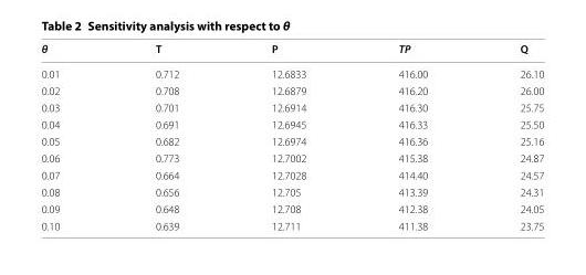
<table><thead><tr><td>θ</td><td>T</td><td>P</td><td>TP</td><td>Q</td></tr></thead><tbody><tr><td>0.01</td><td>0.712</td><td>12.6833</td><td>416.00</td><td>26.10</td></tr><tr><td>0.02</td><td>0.708</td><td>12.6879</td><td>416.20</td><td>26.00</td></tr><tr><td>0.03</td><td>0.701</td><td>12.6914</td><td>416.30</td><td>25.75</td></tr><tr><td>0.04</td><td>0.691</td><td>12.6945</td><td>416.33</td><td>25.50</td></tr><tr><td>0.05</td><td>0.682</td><td>12.6974</td><td>416.36</td><td>25.16</td></tr><tr><td>0.06</td><td>0.773</td><td>12.7002</td><td>415.38</td><td>24.87</td></tr><tr><td>0.07</td><td>0.664</td><td>12.7028</td><td>414.40</td><td>24.57</td></tr><tr><td>0.08</td><td>0.656</td><td>12.705</td><td>413.39</td><td>24.31</td></tr><tr><td>0.09</td><td>0.648</td><td>12.708</td><td>412.38</td><td>24.05</td></tr><tr><td>0.10</td><td>0.639</td><td>12.711</td><td>411.38</td><td>23.75</td></tr></tbody></table>